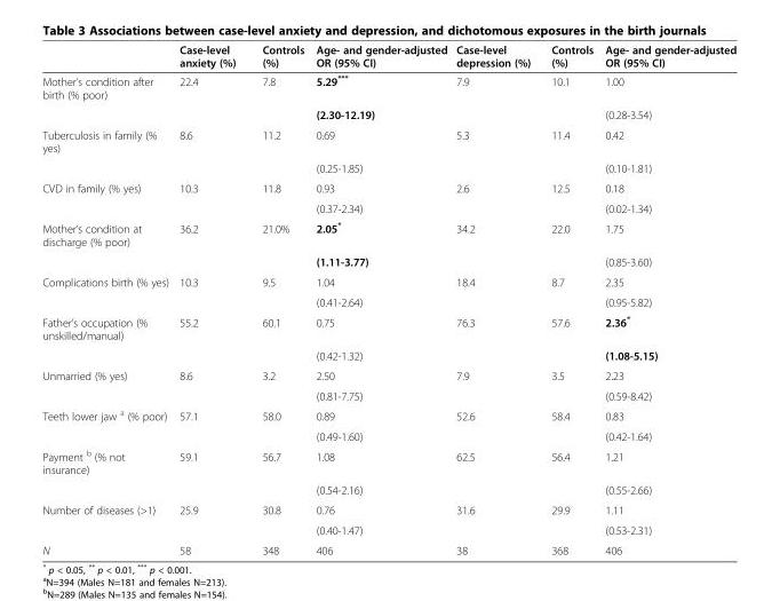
<table><thead><tr><td></td><td>Case-level anxiety (%)</td><td>Controls (%)</td><td>Age- and gender-adjusted OR (95% CI)</td><td>Case-level depression (%)</td><td>Controls (%)</td><td>Age- and gender-adjusted OR (95% CI)</td></tr></thead><tbody><tr><td rowspan="2">Mother’s condition after birth (% poor)</td><td>22.4</td><td>7.8</td><td>5.29***</td><td>7.9</td><td>10.1</td><td>1.00</td></tr><tr><td></td><td></td><td>(2.30-12.19)</td><td></td><td></td><td>(0.28-3.54)</td></tr><tr><td rowspan="2">Tuberculosis in family (% yes)</td><td>8.6</td><td>11.2</td><td>0.69</td><td>5.3</td><td>11.4</td><td>0.42</td></tr><tr><td></td><td></td><td>(0.25-1.85)</td><td></td><td></td><td>(0.10-1.81)</td></tr><tr><td rowspan="2">CVD in family (% yes)</td><td>10.3</td><td>11.8</td><td>0.93</td><td>2.6</td><td>12.5</td><td>0.18</td></tr><tr><td></td><td></td><td>(0.37-2.34)</td><td></td><td></td><td>(0.02-1.34)</td></tr><tr><td rowspan="2">Mother’s condition at discharge (% poor)</td><td>36.2</td><td>21.0%</td><td>2.05*</td><td>34.2</td><td>22.0</td><td>1.75</td></tr><tr><td></td><td></td><td>(1.11-3.77)</td><td></td><td></td><td>(0.85-3.60)</td></tr><tr><td rowspan="2">Complications birth (% yes)</td><td>10.3</td><td>9.5</td><td>1.04</td><td>18.4</td><td>8.7</td><td>2.35</td></tr><tr><td></td><td></td><td>(0.41-2.64)</td><td></td><td></td><td>(0.95-5.82)</td></tr><tr><td rowspan="2">Father’s occupation (% unskilled/manual)</td><td>55.2</td><td>60.1</td><td>0.75</td><td>76.3</td><td>57.6</td><td>2.36*</td></tr><tr><td></td><td></td><td>(0.42-1.32)</td><td></td><td></td><td>(1.08-5.15)</td></tr><tr><td rowspan="2">Unmarried (% yes)</td><td>8.6</td><td>3.2</td><td>2.50</td><td>7.9</td><td>3.5</td><td>2.23</td></tr><tr><td></td><td></td><td>(0.81-7.75)</td><td></td><td></td><td>(0.59-8.42)</td></tr><tr><td rowspan="2">Teeth lower jaw <sup>a</sup> (% poor)</td><td>57.1</td><td>58.0</td><td>0.89</td><td>52.6</td><td>58.4</td><td>0.83</td></tr><tr><td></td><td></td><td>(0.49-1.60)</td><td></td><td></td><td>(0.42-1.64)</td></tr><tr><td rowspan="2">Payment <sup>b</sup> (% not insurance)</td><td>59.1</td><td>56.7</td><td>1.08</td><td>62.5</td><td>56.4</td><td>1.21</td></tr><tr><td></td><td></td><td>(0.54-2.16)</td><td></td><td></td><td>(0.55-2.66)</td></tr><tr><td rowspan="2">Number of diseases (&gt;1)</td><td>25.9</td><td>30.8</td><td>0.76</td><td>31.6</td><td>29.9</td><td>1.11</td></tr><tr><td></td><td></td><td>(0.40-1.47)</td><td></td><td></td><td>(0.53-2.31)</td></tr><tr><td>N</td><td>58</td><td>348</td><td>406</td><td>38</td><td>368</td><td>406</td></tr></tbody></table>